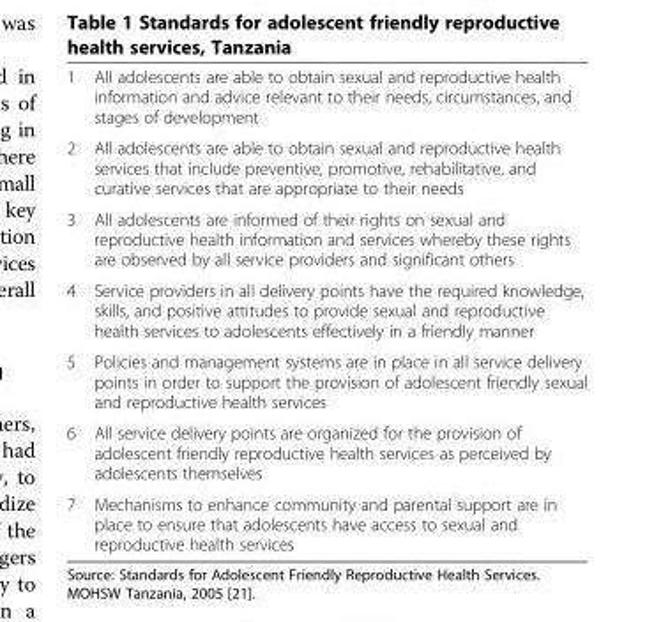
<table><tbody><tr><td>1</td><td>All adolescents are able to obtain sexual and reproductive health information and advice relevant to their needs, circumstances, and stages of development</td></tr><tr><td>2</td><td>All adolescents are able to obtain sexual and reproductive health services that include preventive, promotive, rehabilitative, and curative services that are appropriate to their needs</td></tr><tr><td>3</td><td>All adolescents are informed of their rights on sexual and reproductive health information and services whereby these rights are observed by all service providers and significant others</td></tr><tr><td>4</td><td>Service providers in all delivery points have the required knowledge, skills, and positive attitudes to provide sexual and reproductive health services to adolescents effectively in a friendly manner</td></tr><tr><td>5</td><td>Policies and management systems are in place in all service delivery points in order to support the provision of adolescent friendly sexual and reproductive health services</td></tr><tr><td>6</td><td>All service delivery points are organized for the provision of adolescent friendly reproductive health services as perceived by adolescents themselves</td></tr><tr><td>7</td><td>Mechanisms to enhance community and parental support are in place to ensure that adolescents have access to sexual and reproductive health services</td></tr></tbody></table>